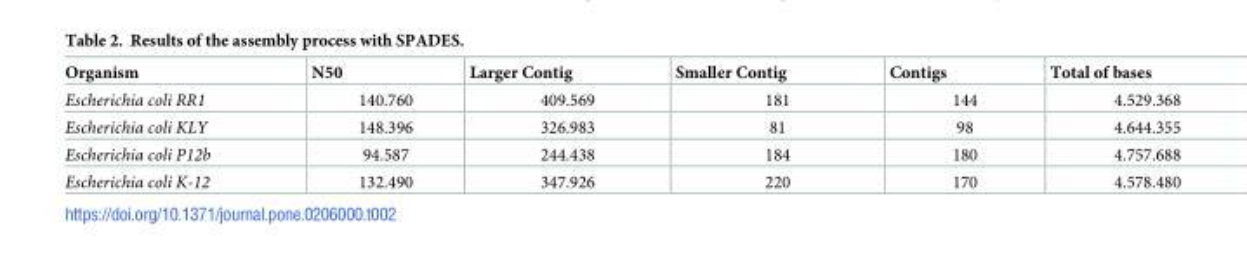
<table><thead><tr><td>Organism</td><td>N50</td><td>Larger Contig</td><td>Smaller Contig</td><td>Contigs</td><td>Total of bases</td></tr></thead><tbody><tr><td>Escherichia coli RR1</td><td>140.760</td><td>409.569</td><td>181</td><td>144</td><td>4.529.368</td></tr><tr><td>Escherichia coli KLY</td><td>148.396</td><td>326.983</td><td>81</td><td>98</td><td>4.644.355</td></tr><tr><td>Escherichia coli P12b</td><td>94.587</td><td>244.438</td><td>184</td><td>180</td><td>4.757.688</td></tr><tr><td>Escherichia coli K-12</td><td>132.490</td><td>347.926</td><td>220</td><td>170</td><td>4.578.480</td></tr></tbody></table>